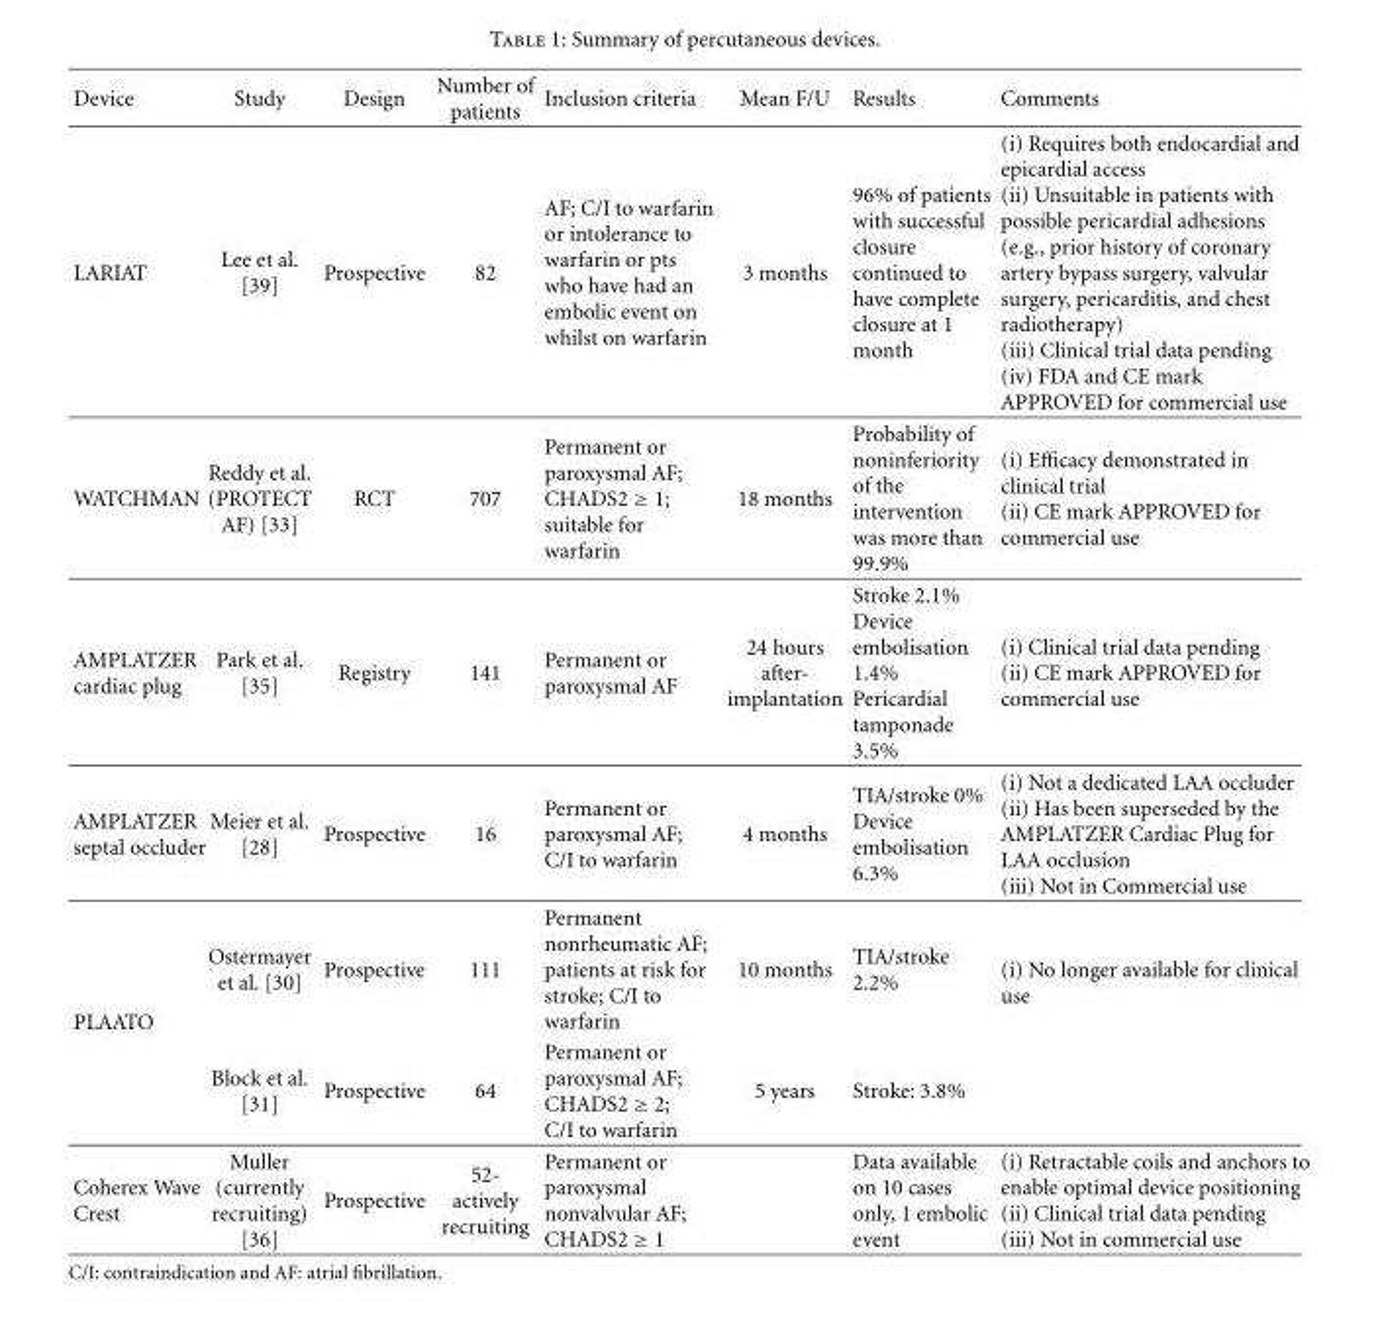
<table><thead><tr><td>Device</td><td>Study</td><td>Design</td><td>Number of patients</td><td>Inclusion criteria</td><td>Mean F/U</td><td>Results</td><td>Comments</td></tr></thead><tbody><tr><td>LARIAT</td><td>Lee et al. [39]</td><td>Prospective</td><td>82</td><td>AF; C/I to warfarin or intolerance to warfarin or pts who have had an embolic event on whilst on warfarin</td><td>3 months</td><td>96% of patients with successful closure continued to have complete closure at 1 month</td><td>(i) Requires both endocardial and epicardial access (ii) Unsuitable in patients with possible pericardial adhesions (e.g., prior history of coronary artery bypass surgery, valvular surgery, pericarditis, and chest radiotherapy) (iii) Clinical trial data pending (iv) FDA and CE mark APPROVED for commercial use</td></tr><tr><td>WATCHMAN</td><td>Reddy et al. (PROTECT AF) [33]</td><td>RCT</td><td>707</td><td>Permanent or paroxysmal AF; CHADS2 ≥ 1; suitable for warfarin</td><td>18 months</td><td>Probability of noninferiority of the intervention was more than 99.9%</td><td>(i) Efficacy demonstrated in clinical trial (ii) CE mark APPROVED for commercial use</td></tr><tr><td>AMPLATZER cardiac plug</td><td>Park et al. [35]</td><td>Registry</td><td>141</td><td>Permanent or paroxysmal AF</td><td>24 hours after- implantation</td><td>Stroke 2.1% Device embolisation 1.4% Pericardial tamponade 3.5%</td><td>(i) Clinical trial data pending (ii) CE mark APPROVED for commercial use</td></tr><tr><td>AMPLATZER septal occluder</td><td>Meier et al. [28]</td><td>Prospective</td><td>16</td><td>Permanent or paroxysmal AF; C/I to warfarin</td><td>4 months</td><td>TIA/stroke 0% Device embolisation 6.3%</td><td>(i) Not a dedicated LAA occluder (ii) Has been superseded by the AMPLATZER Cardiac Plug for LAA occlusion (iii) Not in Commercial use</td></tr><tr><td rowspan="2">PLAATO</td><td>Ostermayer et al. [30]</td><td>Prospective</td><td>111</td><td>Permanent nonrheumatic AF; patients at risk for stroke; C/I to warfarin</td><td>10 months</td><td>TIA/stroke 2.2%</td><td rowspan="2">(i) No longer available for clinical use</td></tr><tr><td>Block et al. [31]</td><td>Prospective</td><td>64</td><td>Permanent or paroxysmal AF; CHADS2 ≥ 2; C/I to warfarin</td><td>5 years</td><td>Stroke: 3.8%</td></tr><tr><td>Coherex Wave Crest</td><td>Muller (currently recruiting) [36]</td><td>Prospective</td><td>52- actively recruiting</td><td>Permanent or paroxysmal nonvalvular AF; CHADS2 ≥ 1</td><td></td><td>Data available on 10 cases only, 1 embolic event</td><td>(i) Retractable coils and anchors to enable optimal device positioning (ii) Clinical trial data pending (iii) Not in commercial use</td></tr></tbody></table>